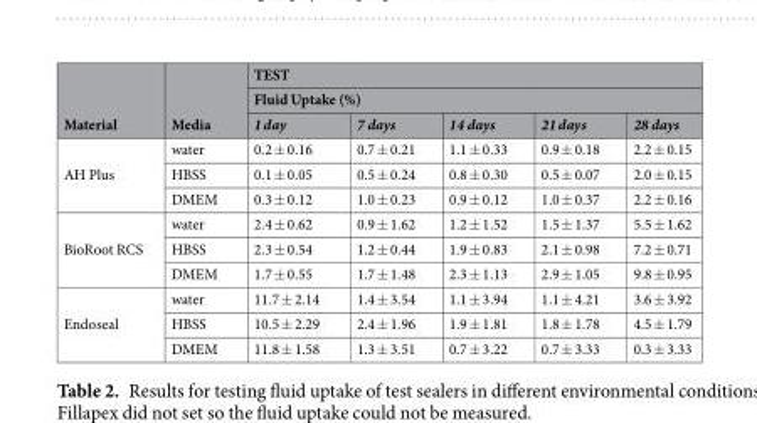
<table><thead><tr><td rowspan="3">Material</td><td rowspan="3">Media</td><td rowspan="2" colspan="5">TEST Fluid Uptake (%)</td></tr><tr></tr><tr><td>1 day</td><td>7 days</td><td>14 days</td><td>21 days</td><td>28 days</td></tr></thead><tbody><tr><td rowspan="3">AH Plus</td><td>water</td><td>0.2 ± 0.16</td><td>0.7 ± 0.21</td><td>1.1 ± 0.33</td><td>0.9 ± 0.18</td><td>2.2 ± 0.15</td></tr><tr><td>HBSS</td><td>0.1 ± 0.05</td><td>0.5 ± 0.24</td><td>0.8 ± 0.30</td><td>0.5 ± 0.07</td><td>2.0 ± 0.15</td></tr><tr><td>DMEM</td><td>0.3 ± 0.12</td><td>1.0 ± 0.23</td><td>0.9 ± 0.12</td><td>1.0 ± 0.37</td><td>2.2 ± 0.16</td></tr><tr><td rowspan="3">BioRoot RCS</td><td>water</td><td>2.4 ± 0.62</td><td>0.9 ± 1.62</td><td>1.2 ± 1.52</td><td>1.5 ± 1.37</td><td>5.5 ± 1.62</td></tr><tr><td>HBSS</td><td>2.3 ± 0.54</td><td>1.2 ± 0.44</td><td>1.9 ± 0.83</td><td>2.1 ± 0.98</td><td>7.2 ± 0.71</td></tr><tr><td>DMEM</td><td>1.7 ± 0.55</td><td>1.7 ± 1.48</td><td>2.3 ± 1.13</td><td>2.9 ± 1.05</td><td>9.8 ± 0.95</td></tr><tr><td rowspan="3">Endoseal</td><td>water</td><td>11.7 ± 2.14</td><td>1.4 ± 3.54</td><td>1.1 ± 3.94</td><td>1.1 ± 4.21</td><td>3.6 ± 3.92</td></tr><tr><td>HBSS</td><td>10.5 ± 2.29</td><td>2.4 ± 1.96</td><td>1.9 ± 1.81</td><td>1.8 ± 1.78</td><td>4.5 ± 1.79</td></tr><tr><td>DMEM</td><td>11.8 ± 1.58</td><td>1.3 ± 3.51</td><td>0.7 ± 3.22</td><td>0.7 ± 3.33</td><td>0.3 ± 3.33</td></tr></tbody></table>